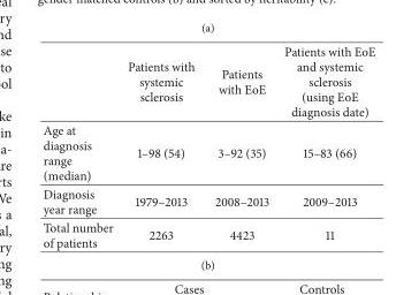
<table><thead><tr><td></td><td>Patients with systemic sclerosis</td><td>Patients with EoE</td><td>Patients with EoE and systemic sclerosis (using EoE diagnosis date)</td></tr></thead><tbody><tr><td>Age at diagnosis range (median)</td><td>1–98 (54)</td><td>3–92 (35)</td><td>15–83 (66)</td></tr><tr><td>Diagnosis year range</td><td>1979–2013</td><td>2008–2013</td><td>2009–2013</td></tr><tr><td>Total number of patients</td><td>2263</td><td>4423</td><td>11</td></tr></tbody></table>